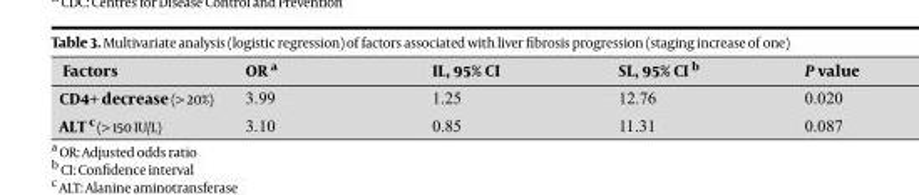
<table><thead><tr><td>Factors</td><td>OR a</td><td>IL, 95% CI</td><td>SL, 95% CI b</td><td>P value</td></tr></thead><tbody><tr><td>CD4+ decrease (&gt; 20%)</td><td>3.99</td><td>1.25</td><td>12.76</td><td>0.020</td></tr><tr><td>ALT c (&gt; 150 IU/L)</td><td>3.10</td><td>0.85</td><td>11.31</td><td>0.087</td></tr></tbody></table>